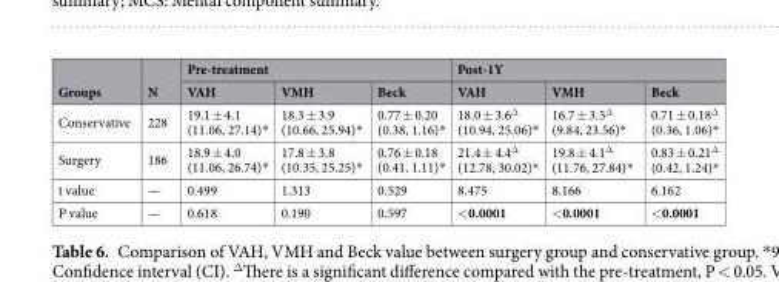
<table><thead><tr><td rowspan="2">Groups</td><td rowspan="2">N</td><td colspan="3">Pre-treatment</td><td colspan="3">Post-1Y</td></tr><tr><td>VAH</td><td>VMH</td><td>Beck</td><td>VAH</td><td>VMH</td><td>Beck</td></tr></thead><tbody><tr><td>Conservative</td><td>228</td><td>19.1 ± 4.1 (11.06, 27.14)*</td><td>18.3 ± 3.9 (10.66, 25.94)*</td><td>0.77 ± 0.20 (0.38, 1.16)*</td><td>18.0 ± 3.6<sup>Δ</sup> (10.94, 25.06)*</td><td>16.7 ± 3.5<sup>Δ</sup> (9.84, 23.56)*</td><td>0.71 ± 0.18<sup>Δ</sup> (0.36, 1.06)*</td></tr><tr><td>Surgery</td><td>186</td><td>18.9 ± 4.0 (11.06, 26.74)*</td><td>17.8 ± 3.8 (10.35, 25.25)*</td><td>0.76 ± 0.18 (0.41, 1.11)*</td><td>21.4 ± 4.4<sup>Δ</sup> (12.78, 30.02)*</td><td>19.8 ± 4.1<sup>Δ</sup> (11.76, 27.84)*</td><td>0.83 ± 0.21<sup>Δ</sup> (0.42, 1.24)*</td></tr><tr><td>t value</td><td>—</td><td>0.499</td><td>1.313</td><td>0.529</td><td>8.475</td><td>8.166</td><td>6.162</td></tr><tr><td>P value</td><td>—</td><td>0.618</td><td>0.190</td><td>0.597</td><td>&lt;0.0001</td><td>&lt;0.0001</td><td>&lt;0.0001</td></tr></tbody></table>